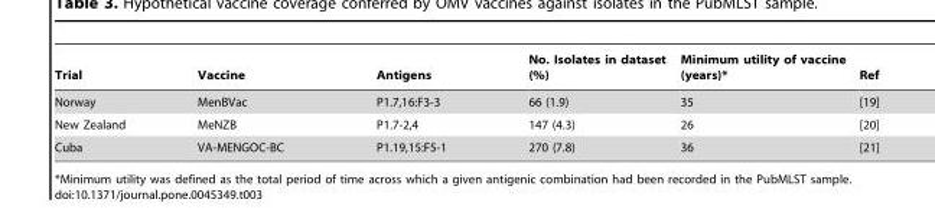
<table><thead><tr><td>Trial</td><td>Vaccine</td><td>Antigens</td><td>No. Isolates in dataset (%)</td><td>Minimum utility of vaccine (years)*</td><td>Ref</td></tr></thead><tbody><tr><td>Norway</td><td>MenBVac</td><td>P1.7,16:F3-3</td><td>66 (1.9)</td><td>35</td><td>[19]</td></tr><tr><td>New Zealand</td><td>MeNZB</td><td>P1.7-2,4</td><td>147 (4.3)</td><td>26</td><td>[20]</td></tr><tr><td>Cuba</td><td>VA-MENGOC-BC</td><td>P1.19,15:F5-1</td><td>270 (7.8)</td><td>36</td><td>[21]</td></tr></tbody></table>